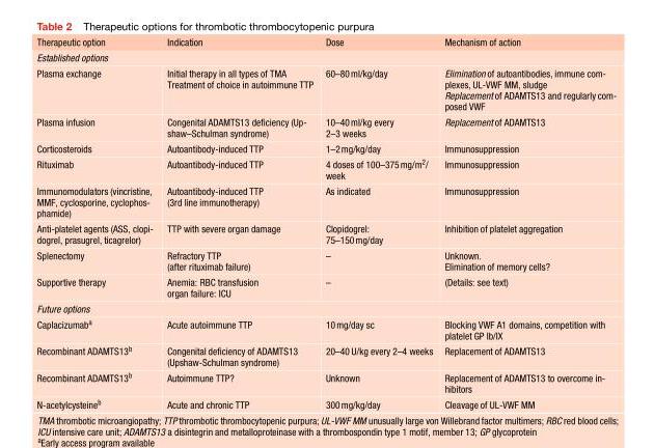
<table><thead><tr><td>Therapeutic option</td><td>Indication</td><td>Dose</td><td>Mechanism of action</td></tr></thead><tbody><tr><td colspan="4">Established options</td></tr><tr><td>Plasma exchange</td><td>Initial therapy in all types of TMA Treatment of choice in autoimmune TTP</td><td>60–80ml/kg/day</td><td>Elimination of autoantibodies, immune com- plexes, UL-VWF MM, sludge Replacement of ADAMTS13 and regularly com- posed VWF</td></tr><tr><td>Plasma infusion</td><td>Congenital ADAMTS13 deficiency (Up- shaw–Schulman syndrome)</td><td>10–40ml/kg every 2–3 weeks</td><td>Replacement of ADAMTS13</td></tr><tr><td>Corticosteroids</td><td>Autoantibody-induced TTP</td><td>1–2mg/kg/day</td><td>Immunosuppression</td></tr><tr><td>Rituximab</td><td>Autoantibody-induced TTP</td><td>4 doses of 100–375mg/m<sup>2</sup>/ week</td><td>Immunosuppression</td></tr><tr><td>Immunomodulators (vincristine, MMF, cyclosporine, cyclophos- phamide)</td><td>Autoantibody-induced TTP (3rd line immunotherapy)</td><td>As indicated</td><td>Immunosuppression</td></tr><tr><td>Anti-platelet agents (ASS, clopi- dogrel, prasugrel, ticagrelor)</td><td>TTP with severe organ damage</td><td>Clopidogrel: 75–150mg/day</td><td>Inhibition of platelet aggregation</td></tr><tr><td>Splenectomy</td><td>Refractory TTP (after rituximab failure)</td><td>–</td><td>Unknown. Elimination of memory cells?</td></tr><tr><td>Supportive therapy</td><td>Anemia: RBC transfusion organ failure: ICU</td><td>–</td><td>(Details: see text)</td></tr><tr><td colspan="4">Future options</td></tr><tr><td>Caplacizumab<sup>a</sup></td><td>Acute autoimmune TTP</td><td>10mg/day sc</td><td>Blocking VWF A1 domains, competition with platelet GP Ib/IX</td></tr><tr><td>Recombinant ADAMTS13<sup>b</sup></td><td>Congenital deficiency of ADAMTS13 (Upshaw-Schulman syndrome)</td><td>20–40 U/kg every 2–4 weeks</td><td>Replacement of ADAMTS13</td></tr><tr><td>Recombinant ADAMTS13<sup>b</sup></td><td>Autoimmune TTP?</td><td>Unknown</td><td>Replacement of ADAMTS13 to overcome in- hibitors</td></tr><tr><td>N-acetylcysteine<sup>b</sup></td><td>Acute and chronic TTP</td><td>300mg/kg/day</td><td>Cleavage of UL-VWF MM</td></tr></tbody></table>